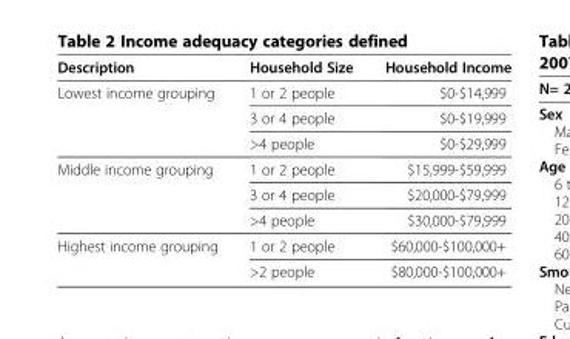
<table><thead><tr><td>Description</td><td>Household Size</td><td>Household Income</td></tr></thead><tbody><tr><td rowspan="3">Lowest income grouping</td><td>1 or 2 people</td><td>$0-$14,999</td></tr><tr><td>3 or 4 people</td><td>$0-$19,999</td></tr><tr><td>&gt;4 people</td><td>$0-$29,999</td></tr><tr><td rowspan="3">Middle income grouping</td><td>1 or 2 people</td><td>$15,999-$59,999</td></tr><tr><td>3 or 4 people</td><td>$20,000-$79,999</td></tr><tr><td>&gt;4 people</td><td>$30,000-$79,999</td></tr><tr><td rowspan="2">Highest income grouping</td><td>1 or 2 people</td><td>$60,000-$100,000+</td></tr><tr><td>&gt;2 people</td><td>$80,000-$100,000+</td></tr></tbody></table>